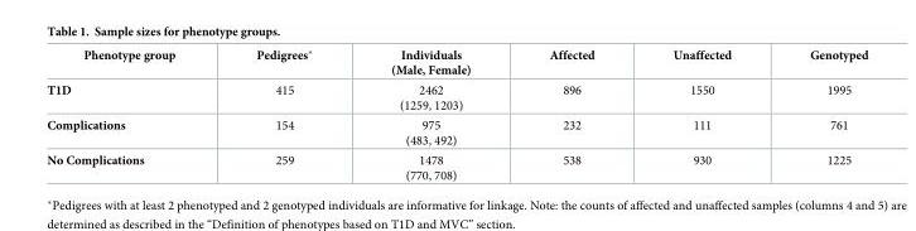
<table><thead><tr><td>Phenotype group</td><td>Pedigrees*</td><td>Individuals (Male, Female)</td><td>Affected</td><td>Unaffected</td><td>Genotyped</td></tr></thead><tbody><tr><td>T1D</td><td>415</td><td>2462 (1259, 1203)</td><td>896</td><td>1550</td><td>1995</td></tr><tr><td>Complications</td><td>154</td><td>975 (483, 492)</td><td>232</td><td>111</td><td>761</td></tr><tr><td>No Complications</td><td>259</td><td>1478 (770, 708)</td><td>538</td><td>930</td><td>1225</td></tr></tbody></table>